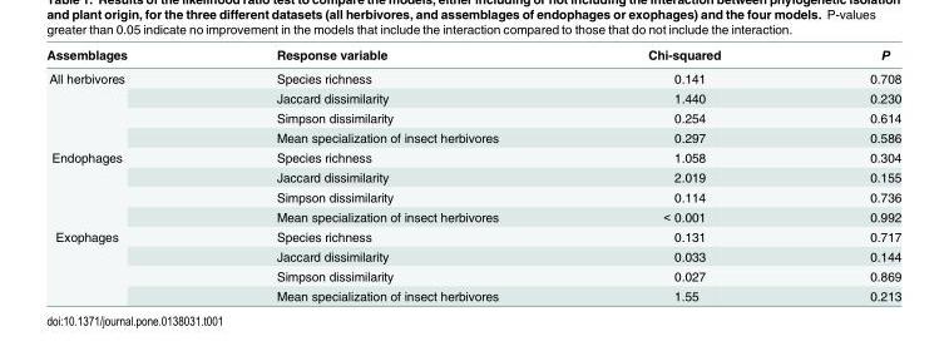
<table><thead><tr><td>Assemblages</td><td>Response variable</td><td>Chi-squared</td><td>P</td></tr></thead><tbody><tr><td rowspan="4">All herbivores</td><td>Species richness</td><td>0.141</td><td>0.708</td></tr><tr><td>Jaccard dissimilarity</td><td>1.440</td><td>0.230</td></tr><tr><td>Simpson dissimilarity</td><td>0.254</td><td>0.614</td></tr><tr><td>Mean specialization of insect herbivores</td><td>0.297</td><td>0.586</td></tr><tr><td rowspan="4">Endophages</td><td>Species richness</td><td>1.058</td><td>0.304</td></tr><tr><td>Jaccard dissimilarity</td><td>2.019</td><td>0.155</td></tr><tr><td>Simpson dissimilarity</td><td>0.114</td><td>0.736</td></tr><tr><td>Mean specialization of insect herbivores</td><td>&lt; 0.001</td><td>0.992</td></tr><tr><td rowspan="4">Exophages</td><td>Species richness</td><td>0.131</td><td>0.717</td></tr><tr><td>Jaccard dissimilarity</td><td>0.033</td><td>0.144</td></tr><tr><td>Simpson dissimilarity</td><td>0.027</td><td>0.869</td></tr><tr><td>Mean specialization of insect herbivores</td><td>1.55</td><td>0.213</td></tr></tbody></table>